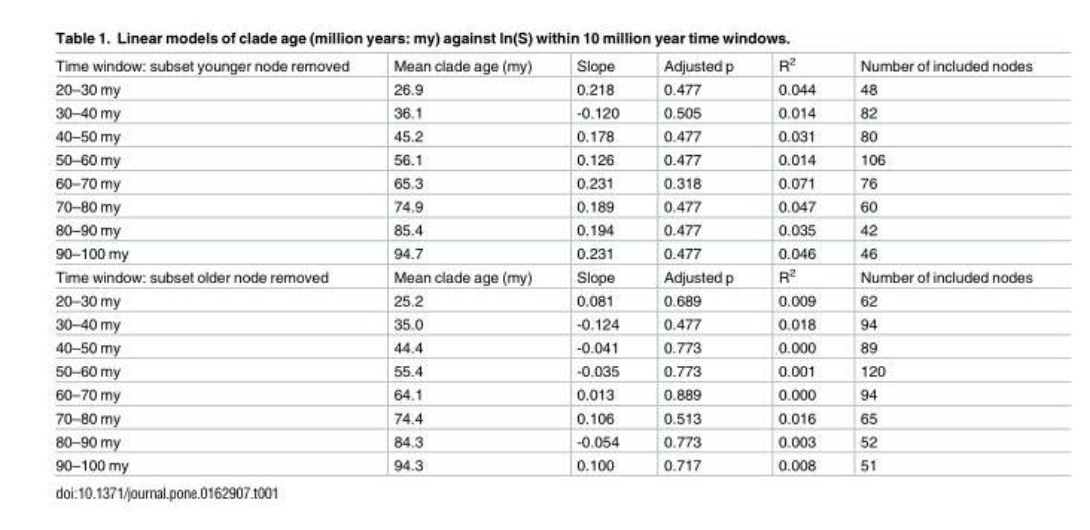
<table><tbody><tr><td>Time window: subset younger node removed</td><td>Mean clade age (my)</td><td>Slope</td><td>Adjusted p</td><td>R<sup>2</sup></td><td>Number of included nodes</td></tr><tr><td>20–30 my</td><td>26.9</td><td>0.218</td><td>0.477</td><td>0.044</td><td>48</td></tr><tr><td>30–40 my</td><td>36.1</td><td>-0.120</td><td>0.505</td><td>0.014</td><td>82</td></tr><tr><td>40–50 my</td><td>45.2</td><td>0.178</td><td>0.477</td><td>0.031</td><td>80</td></tr><tr><td>50–60 my</td><td>56.1</td><td>0.126</td><td>0.477</td><td>0.014</td><td>106</td></tr><tr><td>60–70 my</td><td>65.3</td><td>0.231</td><td>0.318</td><td>0.071</td><td>76</td></tr><tr><td>70–80 my</td><td>74.9</td><td>0.189</td><td>0.477</td><td>0.047</td><td>60</td></tr><tr><td>80–90 my</td><td>85.4</td><td>0.194</td><td>0.477</td><td>0.035</td><td>42</td></tr><tr><td>90–100 my</td><td>94.7</td><td>0.231</td><td>0.477</td><td>0.046</td><td>46</td></tr><tr><td>Time window: subset older node removed</td><td>Mean clade age (my)</td><td>Slope</td><td>Adjusted p</td><td>R<sup>2</sup></td><td>Number of included nodes</td></tr><tr><td>20–30 my</td><td>25.2</td><td>0.081</td><td>0.689</td><td>0.009</td><td>62</td></tr><tr><td>30–40 my</td><td>35.0</td><td>-0.124</td><td>0.477</td><td>0.018</td><td>94</td></tr><tr><td>40–50 my</td><td>44.4</td><td>-0.041</td><td>0.773</td><td>0.000</td><td>89</td></tr><tr><td>50–60 my</td><td>55.4</td><td>-0.035</td><td>0.773</td><td>0.001</td><td>120</td></tr><tr><td>60–70 my</td><td>64.1</td><td>0.013</td><td>0.889</td><td>0.000</td><td>94</td></tr><tr><td>70–80 my</td><td>74.4</td><td>0.106</td><td>0.513</td><td>0.016</td><td>65</td></tr><tr><td>80–90 my</td><td>84.3</td><td>-0.054</td><td>0.773</td><td>0.003</td><td>52</td></tr><tr><td>90–100 my</td><td>94.3</td><td>0.100</td><td>0.717</td><td>0.008</td><td>51</td></tr></tbody></table>